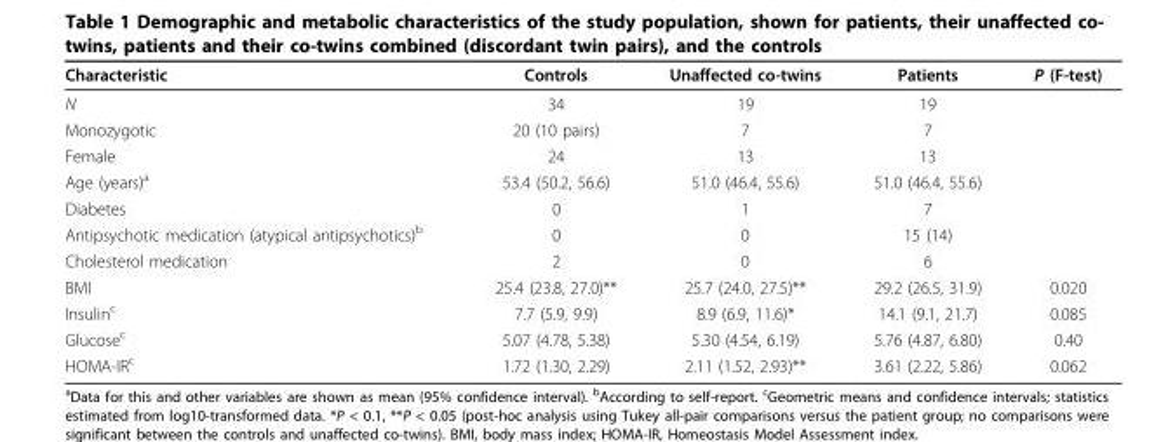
<table><thead><tr><td>Characteristic</td><td>Controls</td><td>Unaffected co-twins</td><td>Patients</td><td>P (F-test)</td></tr></thead><tbody><tr><td>N</td><td>34</td><td>19</td><td>19</td><td></td></tr><tr><td>Monozygotic</td><td>20 (10 pairs)</td><td>7</td><td>7</td><td></td></tr><tr><td>Female</td><td>24</td><td>13</td><td>13</td><td></td></tr><tr><td>Age (years)<sup>a</sup></td><td>53.4 (50.2, 56.6)</td><td>51.0 (46.4, 55.6)</td><td>51.0 (46.4, 55.6)</td><td></td></tr><tr><td>Diabetes</td><td>0</td><td>1</td><td>7</td><td></td></tr><tr><td>Antipsychotic medication (atypical antipsychotics)<sup>b</sup></td><td>0</td><td>0</td><td>15 (14)</td><td></td></tr><tr><td>Cholesterol medication</td><td>2</td><td>0</td><td>6</td><td></td></tr><tr><td>BMI</td><td>25.4 (23.8, 27.0)**</td><td>25.7 (24.0, 27.5)**</td><td>29.2 (26.5, 31.9)</td><td>0.020</td></tr><tr><td>Insulin<sup>c</sup></td><td>7.7 (5.9, 9.9)</td><td>8.9 (6.9, 11.6)*</td><td>14.1 (9.1, 21.7)</td><td>0.085</td></tr><tr><td>Glucose<sup>c</sup></td><td>5.07 (4.78, 5.38)</td><td>5.30 (4.54, 6.19)</td><td>5.76 (4.87, 6.80)</td><td>0.40</td></tr><tr><td>HOMA-IR<sup>c</sup></td><td>1.72 (1.30, 2.29)</td><td>2.11 (1.52, 2.93)**</td><td>3.61 (2.22, 5.86)</td><td>0.062</td></tr></tbody></table>